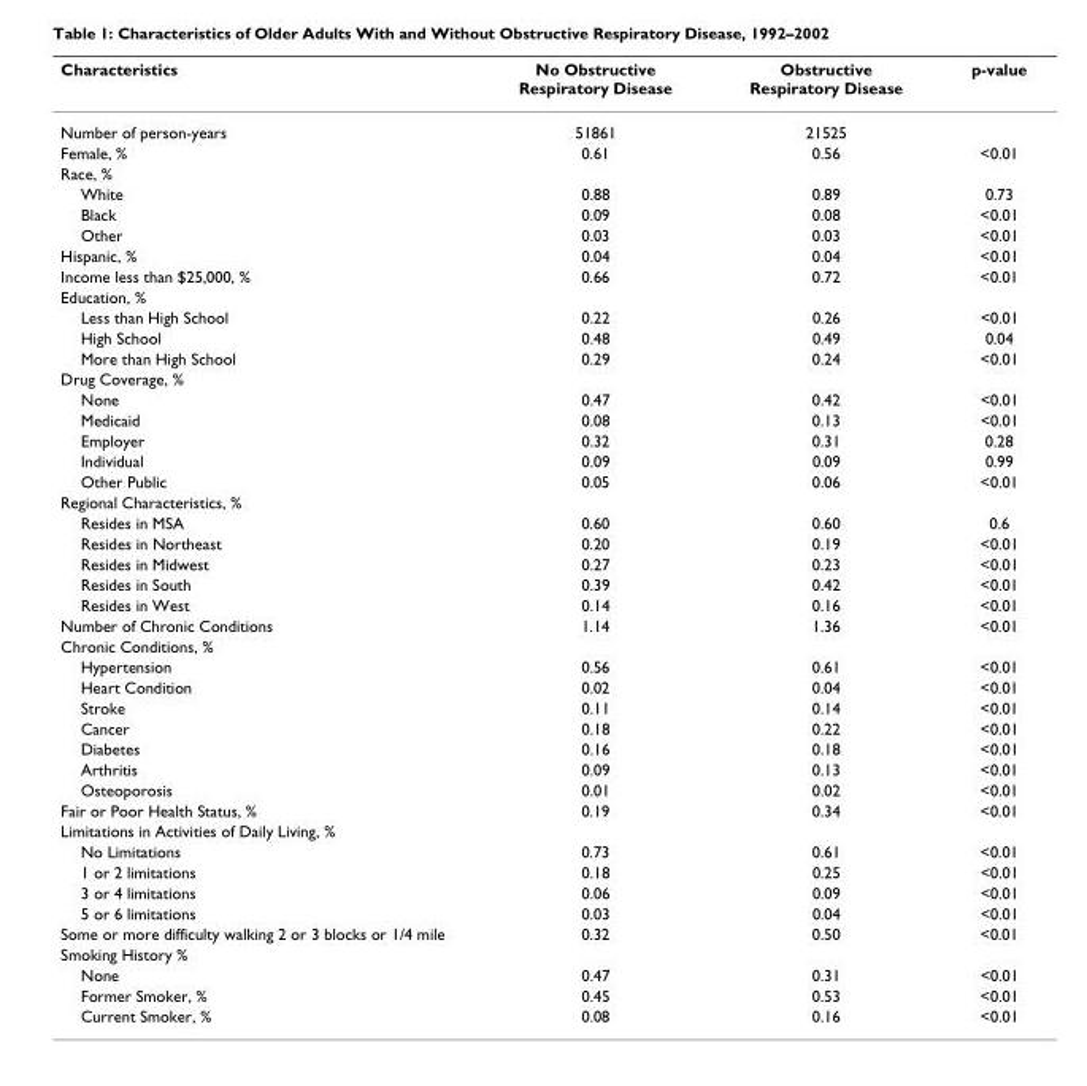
<table><thead><tr><td>Characteristics</td><td>No Obstructive Respiratory Disease</td><td>Obstructive Respiratory Disease</td><td>p-value</td></tr></thead><tbody><tr><td>Number of person-years</td><td>51861</td><td>21525</td><td></td></tr><tr><td>Female, %</td><td>0.61</td><td>0.56</td><td>&lt;0.01</td></tr><tr><td colspan="4">Race, %</td></tr><tr><td>White</td><td>0.88</td><td>0.89</td><td>0.73</td></tr><tr><td>Black</td><td>0.09</td><td>0.08</td><td>&lt;0.01</td></tr><tr><td>Other</td><td>0.03</td><td>0.03</td><td>&lt;0.01</td></tr><tr><td>Hispanic, %</td><td>0.04</td><td>0.04</td><td>&lt;0.01</td></tr><tr><td>Income less than $25,000, %</td><td>0.66</td><td>0.72</td><td>&lt;0.01</td></tr><tr><td colspan="4">Education, %</td></tr><tr><td>Less than High School</td><td>0.22</td><td>0.26</td><td>&lt;0.01</td></tr><tr><td>High School</td><td>0.48</td><td>0.49</td><td>0.04</td></tr><tr><td>More than High School</td><td>0.29</td><td>0.24</td><td>&lt;0.01</td></tr><tr><td colspan="4">Drug Coverage, %</td></tr><tr><td>None</td><td>0.47</td><td>0.42</td><td>&lt;0.01</td></tr><tr><td>Medicaid</td><td>0.08</td><td>0.13</td><td>&lt;0.01</td></tr><tr><td>Employer</td><td>0.32</td><td>0.31</td><td>0.28</td></tr><tr><td>Individual</td><td>0.09</td><td>0.09</td><td>0.99</td></tr><tr><td>Other Public</td><td>0.05</td><td>0.06</td><td>&lt;0.01</td></tr><tr><td colspan="4">Regional Characteristics, %</td></tr><tr><td>Resides in MSA</td><td>0.60</td><td>0.60</td><td>0.6</td></tr><tr><td>Resides in Northeast</td><td>0.20</td><td>0.19</td><td>&lt;0.01</td></tr><tr><td>Resides in Midwest</td><td>0.27</td><td>0.23</td><td>&lt;0.01</td></tr><tr><td>Resides in South</td><td>0.39</td><td>0.42</td><td>&lt;0.01</td></tr><tr><td>Resides in West</td><td>0.14</td><td>0.16</td><td>&lt;0.01</td></tr><tr><td>Number of Chronic Conditions</td><td>1.14</td><td>1.36</td><td>&lt;0.01</td></tr><tr><td colspan="4">Chronic Conditions, %</td></tr><tr><td>Hypertension</td><td>0.56</td><td>0.61</td><td>&lt;0.01</td></tr><tr><td>Heart Condition</td><td>0.02</td><td>0.04</td><td>&lt;0.01</td></tr><tr><td>Stroke</td><td>0.11</td><td>0.14</td><td>&lt;0.01</td></tr><tr><td>Cancer</td><td>0.18</td><td>0.22</td><td>&lt;0.01</td></tr><tr><td>Diabetes</td><td>0.16</td><td>0.18</td><td>&lt;0.01</td></tr><tr><td>Arthritis</td><td>0.09</td><td>0.13</td><td>&lt;0.01</td></tr><tr><td>Osteoporosis</td><td>0.01</td><td>0.02</td><td>&lt;0.01</td></tr><tr><td>Fair or Poor Health Status, %</td><td>0.19</td><td>0.34</td><td>&lt;0.01</td></tr><tr><td colspan="4">Limitations in Activities of Daily Living, %</td></tr><tr><td>No Limitations</td><td>0.73</td><td>0.61</td><td>&lt;0.01</td></tr><tr><td>1 or 2 limitations</td><td>0.18</td><td>0.25</td><td>&lt;0.01</td></tr><tr><td>3 or 4 limitations</td><td>0.06</td><td>0.09</td><td>&lt;0.01</td></tr><tr><td>5 or 6 limitations</td><td>0.03</td><td>0.04</td><td>&lt;0.01</td></tr><tr><td>Some or more difficulty walking 2 or 3 blocks or 1/4 mile</td><td>0.32</td><td>0.50</td><td>&lt;0.01</td></tr><tr><td colspan="4">Smoking History %</td></tr><tr><td>None</td><td>0.47</td><td>0.31</td><td>&lt;0.01</td></tr><tr><td>Former Smoker, %</td><td>0.45</td><td>0.53</td><td>&lt;0.01</td></tr><tr><td>Current Smoker, %</td><td>0.08</td><td>0.16</td><td>&lt;0.01</td></tr></tbody></table>